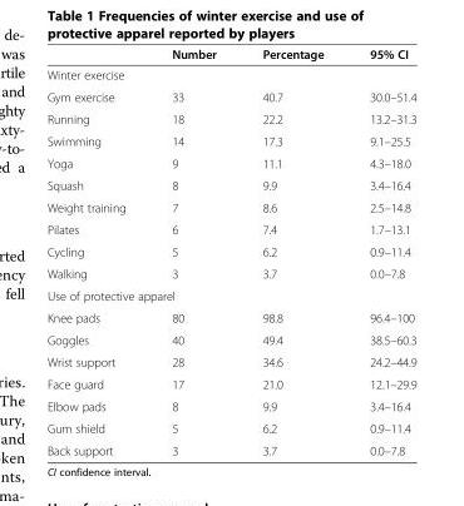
<table><thead><tr><td></td><td>Number</td><td>Percentage</td><td>95% CI</td></tr></thead><tbody><tr><td colspan="4">Winter exercise</td></tr><tr><td>Gym exercise</td><td>33</td><td>40.7</td><td>30.0–51.4</td></tr><tr><td>Running</td><td>18</td><td>22.2</td><td>13.2–31.3</td></tr><tr><td>Swimming</td><td>14</td><td>17.3</td><td>9.1–25.5</td></tr><tr><td>Yoga</td><td>9</td><td>11.1</td><td>4.3–18.0</td></tr><tr><td>Squash</td><td>8</td><td>9.9</td><td>3.4–16.4</td></tr><tr><td>Weight training</td><td>7</td><td>8.6</td><td>2.5–14.8</td></tr><tr><td>Pilates</td><td>6</td><td>7.4</td><td>1.7–13.1</td></tr><tr><td>Cycling</td><td>5</td><td>6.2</td><td>0.9–11.4</td></tr><tr><td>Walking</td><td>3</td><td>3.7</td><td>0.0–7.8</td></tr><tr><td colspan="4">Use of protective apparel</td></tr><tr><td>Knee pads</td><td>80</td><td>98.8</td><td>96.4–100</td></tr><tr><td>Goggles</td><td>40</td><td>49.4</td><td>38.5–60.3</td></tr><tr><td>Wrist support</td><td>28</td><td>34.6</td><td>24.2–44.9</td></tr><tr><td>Face guard</td><td>17</td><td>21.0</td><td>12.1–29.9</td></tr><tr><td>Elbow pads</td><td>8</td><td>9.9</td><td>3.4–16.4</td></tr><tr><td>Gum shield</td><td>5</td><td>6.2</td><td>0.9–11.4</td></tr><tr><td>Back support</td><td>3</td><td>3.7</td><td>0.0–7.8</td></tr></tbody></table>